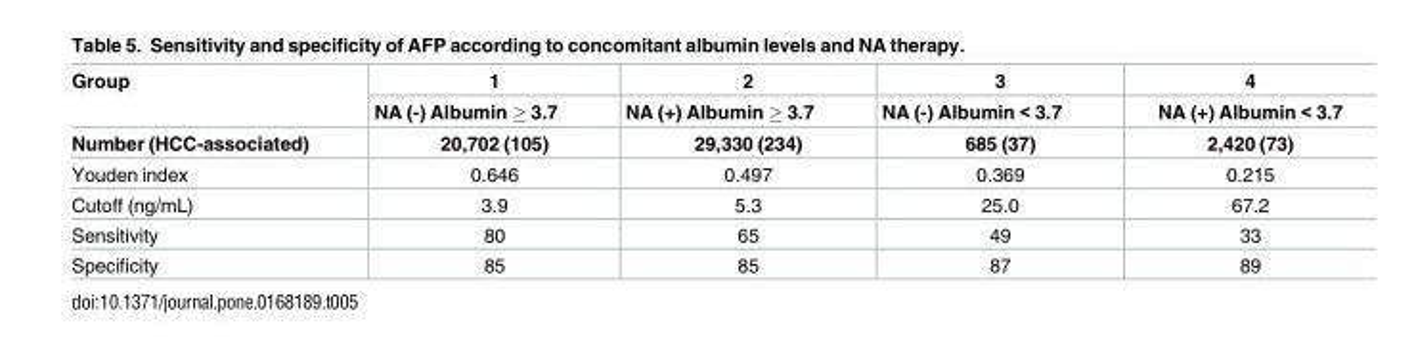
<table><thead><tr><td rowspan="3">Group Number (HCC-associated)</td><td rowspan="3">1 NA (-) Albumin ≥ 3.7 20,702 (105)</td><td rowspan="3">2 NA (+) Albumin ≥ 3.7 29,330 (234)</td><td rowspan="3">3 NA (-) Albumin &lt; 3.7 685 (37)</td><td rowspan="3">4 NA (+) Albumin &lt; 3.7 2,420 (73)</td></tr><tr></tr><tr></tr></thead><tbody><tr><td>Youden index</td><td>0.646</td><td>0.497</td><td>0.369</td><td>0.215</td></tr><tr><td>Cutoff (ng/mL)</td><td>3.9</td><td>5.3</td><td>25.0</td><td>67.2</td></tr><tr><td>Sensitivity</td><td>80</td><td>65</td><td>49</td><td>33</td></tr><tr><td>Specificity</td><td>85</td><td>85</td><td>87</td><td>89</td></tr></tbody></table>